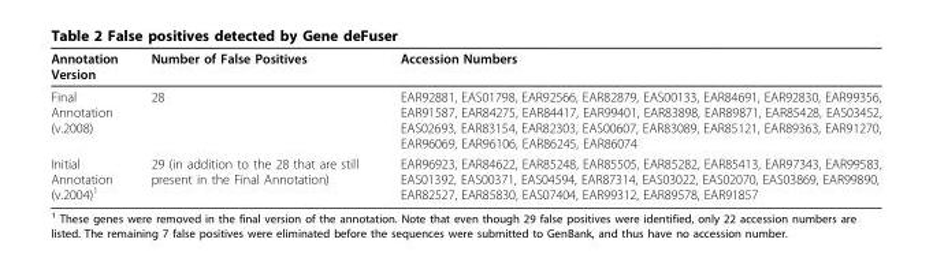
<table><thead><tr><td>Annotation Version</td><td>Number of False Positives</td><td>Accession Numbers</td></tr></thead><tbody><tr><td>Final Annotation (v.2008)</td><td>28</td><td>EAR92881, EAS01798, EAR92566, EAR82879, EAS00133, EAR84691, EAR92830, EAR99356, EAR91587, EAR84275, EAR84417, EAR99401, EAR83898, EAR89871, EAR85428, EAS03452, EAS02693, EAR83154, EAR82303, EAS00607, EAR83089, EAR85121, EAR89363, EAR91270, EAR96069, EAR96106, EAR86245, EAR86074</td></tr><tr><td>Initial Annotation (v.2004)<sup>1</sup></td><td>29 (in addition to the 28 that are still present in the Final Annotation)</td><td>EAR96923, EAR84622, EAR85248, EAR85505, EAR85282, EAR85413, EAR97343, EAR99583, EAS01392, EAS00371, EAS04594, EAR87314, EAS03022, EAS02070, EAS03869, EAR99890, EAR82527, EAR85830, EAS07404, EAR99312, EAR89578, EAR91857</td></tr></tbody></table>